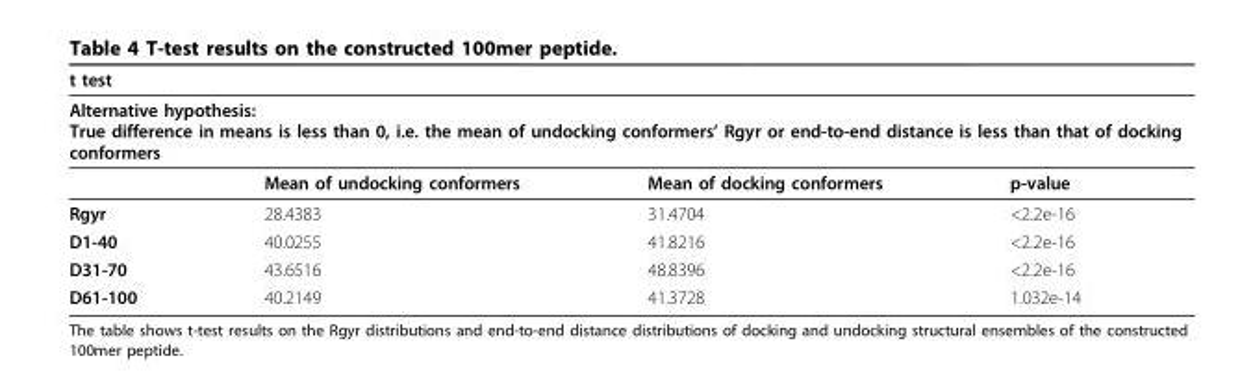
<table><thead><tr><td rowspan="2" colspan="4">t test Alternative hypothesis: True difference in means is less than 0, i.e. the mean of undocking conformers’ Rgyr or end-to-end distance is less than that of docking conformers</td></tr><tr></tr><tr><td></td><td>Mean of undocking conformers</td><td>Mean of docking conformers</td><td>p-value</td></tr></thead><tbody><tr><td>Rgyr</td><td>28.4383</td><td>31.4704</td><td>&lt;2.2e-16</td></tr><tr><td>D1-40</td><td>40.0255</td><td>41.8216</td><td>&lt;2.2e-16</td></tr><tr><td>D31-70</td><td>43.6516</td><td>48.8396</td><td>&lt;2.2e-16</td></tr><tr><td>D61-100</td><td>40.2149</td><td>41.3728</td><td>1.032e-14</td></tr></tbody></table>